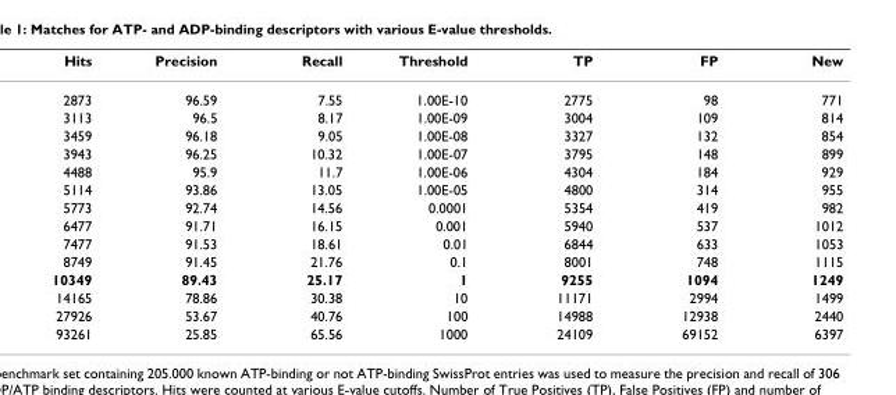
<table><thead><tr><td>Hits</td><td>Precision</td><td>Recall</td><td>Threshold</td><td>TP</td><td>FP</td><td>New</td></tr></thead><tbody><tr><td>2873</td><td>96.59</td><td>7.55</td><td>1.00E-10</td><td>2775</td><td>98</td><td>771</td></tr><tr><td>3113</td><td>96.5</td><td>8.17</td><td>1.00E-09</td><td>3004</td><td>109</td><td>814</td></tr><tr><td>3459</td><td>96.18</td><td>9.05</td><td>1.00E-08</td><td>3327</td><td>132</td><td>854</td></tr><tr><td>3943</td><td>96.25</td><td>10.32</td><td>1.00E-07</td><td>3795</td><td>148</td><td>899</td></tr><tr><td>4488</td><td>95.9</td><td>11.7</td><td>1.00E-06</td><td>4304</td><td>184</td><td>929</td></tr><tr><td>5114</td><td>93.86</td><td>13.05</td><td>1.00E-05</td><td>4800</td><td>314</td><td>955</td></tr><tr><td>5773</td><td>92.74</td><td>14.56</td><td>0.0001</td><td>5354</td><td>419</td><td>982</td></tr><tr><td>6477</td><td>91.71</td><td>16.15</td><td>0.001</td><td>5940</td><td>537</td><td>1012</td></tr><tr><td>7477</td><td>91.53</td><td>18.61</td><td>0.01</td><td>6844</td><td>633</td><td>1053</td></tr><tr><td>8749</td><td>91.45</td><td>21.76</td><td>0.1</td><td>8001</td><td>748</td><td>1115</td></tr><tr><td>10349</td><td>89.43</td><td>25.17</td><td>1</td><td>9255</td><td>1094</td><td>1249</td></tr><tr><td>14165</td><td>78.86</td><td>30.38</td><td>10</td><td>11171</td><td>2994</td><td>1499</td></tr><tr><td>27926</td><td>53.67</td><td>40.76</td><td>100</td><td>14988</td><td>12938</td><td>2440</td></tr><tr><td>93261</td><td>25.85</td><td>65.56</td><td>1000</td><td>24109</td><td>69152</td><td>6397</td></tr></tbody></table>